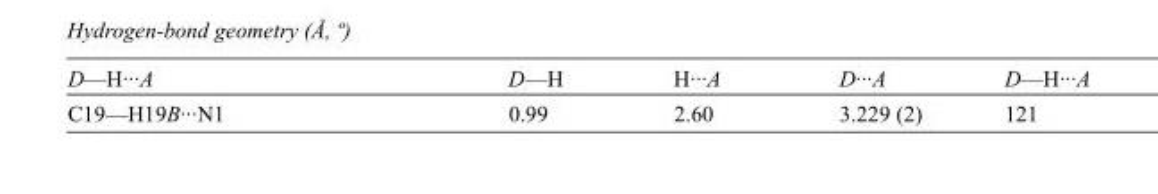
<table><tbody><tr><td>D—H···A</td><td>D—H</td><td>H···A</td><td>D···A</td><td>D—H···A</td></tr><tr><td>C19—H19B···N1</td><td>0.99</td><td>2.60</td><td>3.229 (2)</td><td>121</td></tr></tbody></table>